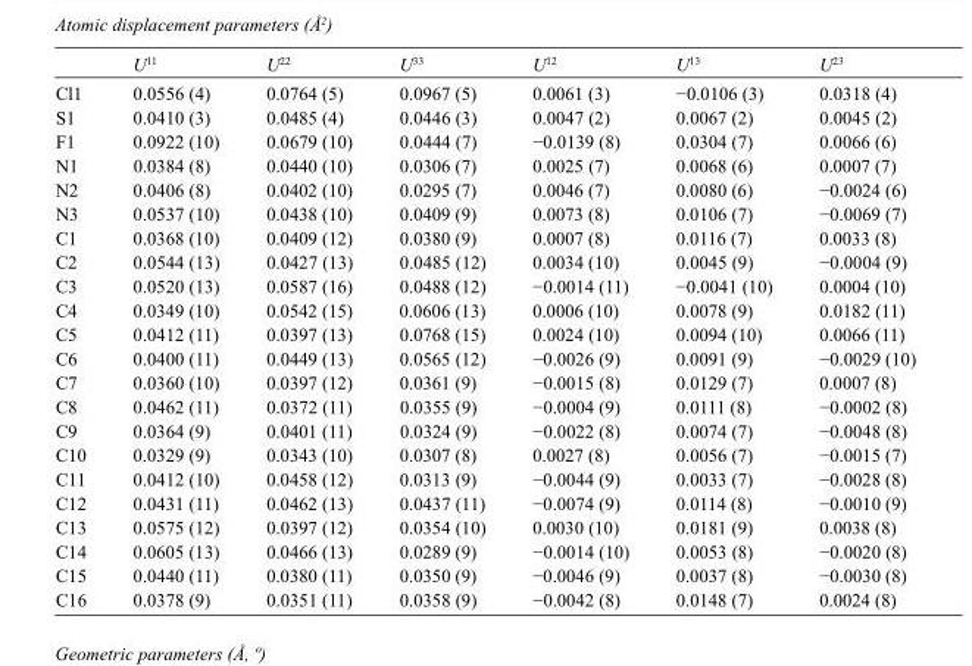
<table><thead><tr><td></td><td>U<sup>11</sup></td><td>U<sup>22</sup></td><td>U<sup>33</sup></td><td>U<sup>12</sup></td><td>U<sup>13</sup></td><td>U<sup>23</sup></td></tr></thead><tbody><tr><td>Cl1</td><td>0.0556 (4)</td><td>0.0764 (5)</td><td>0.0967 (5)</td><td>0.0061 (3)</td><td>−0.0106 (3)</td><td>0.0318 (4)</td></tr><tr><td>S1</td><td>0.0410 (3)</td><td>0.0485 (4)</td><td>0.0446 (3)</td><td>0.0047 (2)</td><td>0.0067 (2)</td><td>0.0045 (2)</td></tr><tr><td>F1</td><td>0.0922 (10)</td><td>0.0679 (10)</td><td>0.0444 (7)</td><td>−0.0139 (8)</td><td>0.0304 (7)</td><td>0.0066 (6)</td></tr><tr><td>N1</td><td>0.0384 (8)</td><td>0.0440 (10)</td><td>0.0306 (7)</td><td>0.0025 (7)</td><td>0.0068 (6)</td><td>0.0007 (7)</td></tr><tr><td>N2</td><td>0.0406 (8)</td><td>0.0402 (10)</td><td>0.0295 (7)</td><td>0.0046 (7)</td><td>0.0080 (6)</td><td>−0.0024 (6)</td></tr><tr><td>N3</td><td>0.0537 (10)</td><td>0.0438 (10)</td><td>0.0409 (9)</td><td>0.0073 (8)</td><td>0.0106 (7)</td><td>−0.0069 (7)</td></tr><tr><td>C1</td><td>0.0368 (10)</td><td>0.0409 (12)</td><td>0.0380 (9)</td><td>0.0007 (8)</td><td>0.0116 (7)</td><td>0.0033 (8)</td></tr><tr><td>C2</td><td>0.0544 (13)</td><td>0.0427 (13)</td><td>0.0485 (12)</td><td>0.0034 (10)</td><td>0.0045 (9)</td><td>−0.0004 (9)</td></tr><tr><td>C3</td><td>0.0520 (13)</td><td>0.0587 (16)</td><td>0.0488 (12)</td><td>−0.0014 (11)</td><td>−0.0041 (10)</td><td>0.0004 (10)</td></tr><tr><td>C4</td><td>0.0349 (10)</td><td>0.0542 (15)</td><td>0.0606 (13)</td><td>0.0006 (10)</td><td>0.0078 (9)</td><td>0.0182 (11)</td></tr><tr><td>C5</td><td>0.0412 (11)</td><td>0.0397 (13)</td><td>0.0768 (15)</td><td>0.0024 (10)</td><td>0.0094 (10)</td><td>0.0066 (11)</td></tr><tr><td>C6</td><td>0.0400 (11)</td><td>0.0449 (13)</td><td>0.0565 (12)</td><td>−0.0026 (9)</td><td>0.0091 (9)</td><td>−0.0029 (10)</td></tr><tr><td>C7</td><td>0.0360 (10)</td><td>0.0397 (12)</td><td>0.0361 (9)</td><td>−0.0015 (8)</td><td>0.0129 (7)</td><td>0.0007 (8)</td></tr><tr><td>C8</td><td>0.0462 (11)</td><td>0.0372 (11)</td><td>0.0355 (9)</td><td>−0.0004 (9)</td><td>0.0111 (8)</td><td>−0.0002 (8)</td></tr><tr><td>C9</td><td>0.0364 (9)</td><td>0.0401 (11)</td><td>0.0324 (9)</td><td>−0.0022 (8)</td><td>0.0074 (7)</td><td>−0.0048 (8)</td></tr><tr><td>C10</td><td>0.0329 (9)</td><td>0.0343 (10)</td><td>0.0307 (8)</td><td>0.0027 (8)</td><td>0.0056 (7)</td><td>−0.0015 (7)</td></tr><tr><td>C11</td><td>0.0412 (10)</td><td>0.0458 (12)</td><td>0.0313 (9)</td><td>−0.0044 (9)</td><td>0.0033 (7)</td><td>−0.0028 (8)</td></tr><tr><td>C12</td><td>0.0431 (11)</td><td>0.0462 (13)</td><td>0.0437 (11)</td><td>−0.0074 (9)</td><td>0.0114 (8)</td><td>−0.0010 (9)</td></tr><tr><td>C13</td><td>0.0575 (12)</td><td>0.0397 (12)</td><td>0.0354 (10)</td><td>0.0030 (10)</td><td>0.0181 (9)</td><td>0.0038 (8)</td></tr><tr><td>C14</td><td>0.0605 (13)</td><td>0.0466 (13)</td><td>0.0289 (9)</td><td>−0.0014 (10)</td><td>0.0053 (8)</td><td>−0.0020 (8)</td></tr><tr><td>C15</td><td>0.0440 (11)</td><td>0.0380 (11)</td><td>0.0350 (9)</td><td>−0.0046 (9)</td><td>0.0037 (8)</td><td>−0.0030 (8)</td></tr><tr><td>C16</td><td>0.0378 (9)</td><td>0.0351 (11)</td><td>0.0358 (9)</td><td>−0.0042 (8)</td><td>0.0148 (7)</td><td>0.0024 (8)</td></tr></tbody></table>